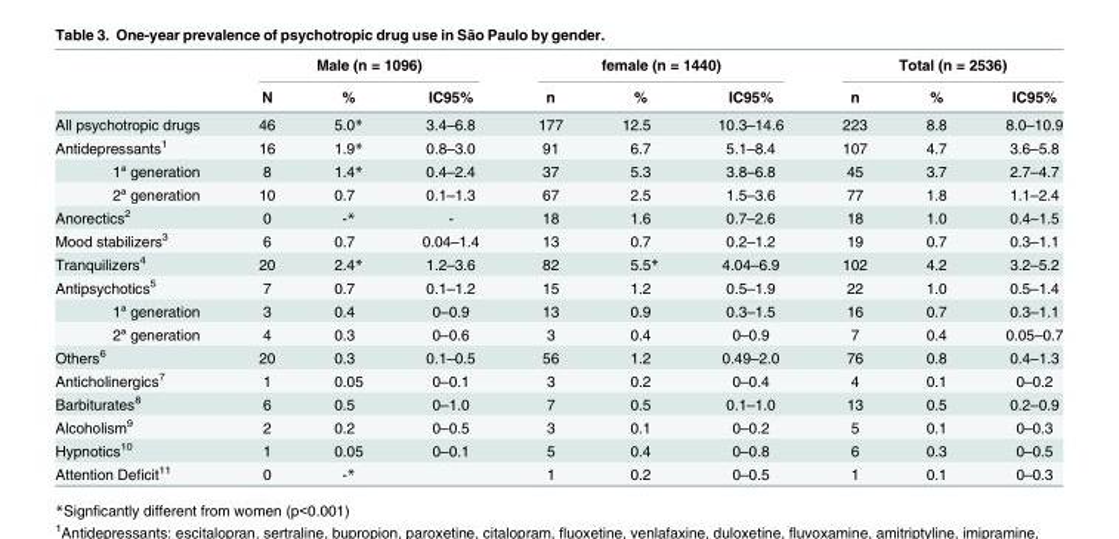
<table><thead><tr><td rowspan="2"></td><td colspan="3">Male (n = 1096)</td><td colspan="3">female (n = 1440)</td><td colspan="3">Total (n = 2536)</td></tr><tr><td>N</td><td>%</td><td>IC95%</td><td>n</td><td>%</td><td>IC95%</td><td>n</td><td>%</td><td>IC95%</td></tr></thead><tbody><tr><td>All psychotropic drugs</td><td>46</td><td>5.0*</td><td>3.4–6.8</td><td>177</td><td>12.5</td><td>10.3–14.6</td><td>223</td><td>8.8</td><td>8.0–10.9</td></tr><tr><td>Antidepressants<sup>1</sup></td><td>16</td><td>1.9*</td><td>0.8–3.0</td><td>91</td><td>6.7</td><td>5.1–8.4</td><td>107</td><td>4.7</td><td>3.6–5.8</td></tr><tr><td>1ª generation</td><td>8</td><td>1.4*</td><td>0.4–2.4</td><td>37</td><td>5.3</td><td>3.8–6.8</td><td>45</td><td>3.7</td><td>2.7–4.7</td></tr><tr><td>2ª generation</td><td>10</td><td>0.7</td><td>0.1–1.3</td><td>67</td><td>2.5</td><td>1.5–3.6</td><td>77</td><td>1.8</td><td>1.1–2.4</td></tr><tr><td>Anorectics<sup>2</sup></td><td>0</td><td>-*</td><td>-</td><td>18</td><td>1.6</td><td>0.7–2.6</td><td>18</td><td>1.0</td><td>0.4–1.5</td></tr><tr><td>Mood stabilizers<sup>3</sup></td><td>6</td><td>0.7</td><td>0.04–1.4</td><td>13</td><td>0.7</td><td>0.2–1.2</td><td>19</td><td>0.7</td><td>0.3–1.1</td></tr><tr><td>Tranquilizers<sup>4</sup></td><td>20</td><td>2.4*</td><td>1.2–3.6</td><td>82</td><td>5.5*</td><td>4.04–6.9</td><td>102</td><td>4.2</td><td>3.2–5.2</td></tr><tr><td>Antipsychotics<sup>5</sup></td><td>7</td><td>0.7</td><td>0.1–1.2</td><td>15</td><td>1.2</td><td>0.5–1.9</td><td>22</td><td>1.0</td><td>0.5–1.4</td></tr><tr><td>1ª generation</td><td>3</td><td>0.4</td><td>0–0.9</td><td>13</td><td>0.9</td><td>0.3–1.5</td><td>16</td><td>0.7</td><td>0.3–1.1</td></tr><tr><td>2ª generation</td><td>4</td><td>0.3</td><td>0–0.6</td><td>3</td><td>0.4</td><td>0–0.9</td><td>7</td><td>0.4</td><td>0.05–0.7</td></tr><tr><td>Others<sup>6</sup></td><td>20</td><td>0.3</td><td>0.1–0.5</td><td>56</td><td>1.2</td><td>0.49–2.0</td><td>76</td><td>0.8</td><td>0.4–1.3</td></tr><tr><td>Anticholinergics<sup>7</sup></td><td>1</td><td>0.05</td><td>0–0.1</td><td>3</td><td>0.2</td><td>0–0.4</td><td>4</td><td>0.1</td><td>0–0.2</td></tr><tr><td>Barbiturates<sup>8</sup></td><td>6</td><td>0.5</td><td>0–1.0</td><td>7</td><td>0.5</td><td>0.1–1.0</td><td>13</td><td>0.5</td><td>0.2–0.9</td></tr><tr><td>Alcoholism<sup>9</sup></td><td>2</td><td>0.2</td><td>0–0.5</td><td>3</td><td>0.1</td><td>0–0.2</td><td>5</td><td>0.1</td><td>0–0.3</td></tr><tr><td>Hypnotics<sup>10</sup></td><td>1</td><td>0.05</td><td>0–0.1</td><td>5</td><td>0.4</td><td>0–0.8</td><td>6</td><td>0.3</td><td>0–0.5</td></tr><tr><td>Attention Deficit<sup>11</sup></td><td>0</td><td>-*</td><td></td><td>1</td><td>0.2</td><td>0–0.5</td><td>1</td><td>0.1</td><td>0–0.3</td></tr></tbody></table>